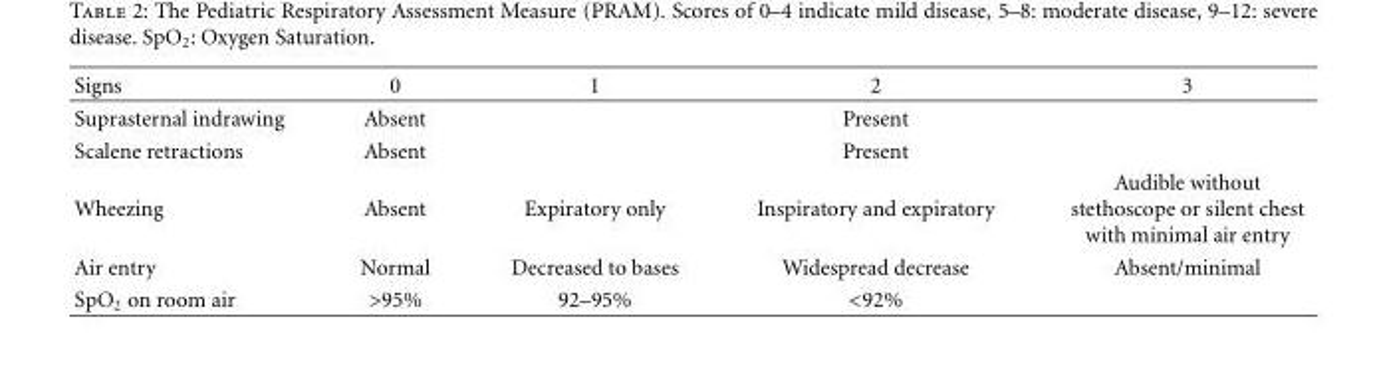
<table><thead><tr><td>Signs</td><td>0</td><td>1</td><td>2</td><td>3</td></tr></thead><tbody><tr><td>Suprasternal indrawing</td><td>Absent</td><td></td><td>Present</td><td></td></tr><tr><td>Scalene retractions</td><td>Absent</td><td></td><td>Present</td><td></td></tr><tr><td>Wheezing</td><td>Absent</td><td>Expiratory only</td><td>Inspiratory and expiratory</td><td>Audible without stethoscope or silent chest with minimal air entry</td></tr><tr><td>Air entry</td><td>Normal</td><td>Decreased to bases</td><td>Widespread decrease</td><td>Absent/minimal</td></tr><tr><td>SpO<sub>2</sub> on room air</td><td>&gt;95%</td><td>92–95%</td><td>&lt;92%</td><td></td></tr></tbody></table>